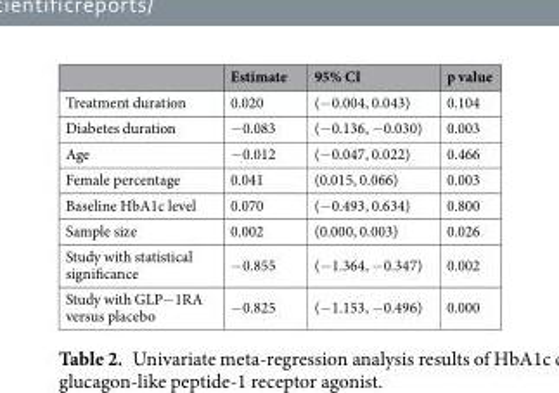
<table><thead><tr><td></td><td>Estimate</td><td>95% CI</td><td>p value</td></tr></thead><tbody><tr><td>Treatment duration</td><td>0.020</td><td>(−0.004, 0.043)</td><td>0.104</td></tr><tr><td>Diabetes duration</td><td>−0.083</td><td>(−0.136, −0.030)</td><td>0.003</td></tr><tr><td>Age</td><td>−0.012</td><td>(−0.047, 0.022)</td><td>0.466</td></tr><tr><td>Female percentage</td><td>0.041</td><td>(0.015, 0.066)</td><td>0.003</td></tr><tr><td>Baseline HbA1c level</td><td>0.070</td><td>(−0.493, 0.634)</td><td>0.800</td></tr><tr><td>Sample size</td><td>0.002</td><td>(0.000, 0.003)</td><td>0.026</td></tr><tr><td>Study with statistical significance</td><td>−0.855</td><td>(−1.364, −0.347)</td><td>0.002</td></tr><tr><td>Study with GLP−1RA versus placebo</td><td>−0.825</td><td>(−1.153, −0.496)</td><td>0.000</td></tr></tbody></table>